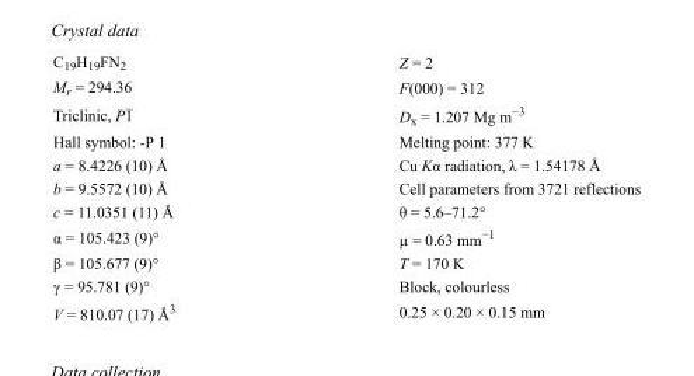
<table><tbody><tr><td>C<sub>19</sub>H<sub>19</sub>FN<sub>2</sub></td><td>Z = 2</td></tr><tr><td>M<sub>r</sub> = 294.36</td><td>F(000) = 312</td></tr><tr><td>Triclinic, P1</td><td>D<sub>x</sub> = 1.207 Mg m<sup>−3</sup></td></tr><tr><td>Hall symbol: -P 1</td><td>Melting point: 377 K</td></tr><tr><td>a = 8.4226 (10) Å</td><td>Cu Kα radiation, λ = 1.54178 Å</td></tr><tr><td>b = 9.5572 (10) Å</td><td>Cell parameters from 3721 reflections</td></tr><tr><td>c = 11.0351 (11) Å</td><td>θ = 5.6–71.2°</td></tr><tr><td>α = 105.423 (9)°</td><td>µ = 0.63 mm<sup>−1</sup></td></tr><tr><td>β = 105.677 (9)°</td><td>T = 170 K</td></tr><tr><td>γ = 95.781 (9)°</td><td>Block, colourless</td></tr><tr><td>V = 810.07 (17) Å<sup>3</sup></td><td>0.25 × 0.20 × 0.15 mm</td></tr></tbody></table>